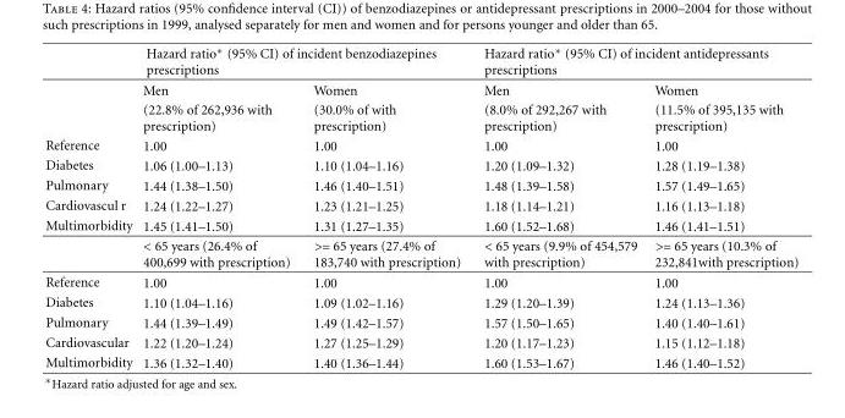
<table><thead><tr><td rowspan="2"></td><td colspan="2">Hazard ratio∗ (95% CI) of incident benzodiazepines prescriptions</td><td colspan="2">Hazard ratio∗ (95% CI) of incident antidepressants prescriptions</td></tr><tr><td>Men</td><td>Women</td><td>Men</td><td>Women</td></tr></thead><tbody><tr><td></td><td>(22.8% of 262,936 with prescription)</td><td>(30.0% of with prescription)</td><td>(8.0% of 292,267 with prescription)</td><td>(11.5% of 395,135 with prescription)</td></tr><tr><td>Reference</td><td>1.00</td><td>1.00</td><td>1.00</td><td>1.00</td></tr><tr><td>Diabetes</td><td>1.06 (1.00–1.13)</td><td>1.10 (1.04–1.16)</td><td>1.20 (1.09–1.32)</td><td>1.28 (1.19–1.38)</td></tr><tr><td>Pulmonary</td><td>1.44 (1.38–1.50)</td><td>1.46 (1.40–1.51)</td><td>1.48 (1.39–1.58)</td><td>1.57 (1.49–1.65)</td></tr><tr><td>Cardiovascul r</td><td>1.24 (1.22–1.27)</td><td>1.23 (1.21–1.25)</td><td>1.18 (1.14–1.21)</td><td>1.16 (1.13–1.18)</td></tr><tr><td rowspan="2">Multimorbidity</td><td>1.45 (1.41–1.50)</td><td>1.31 (1.27–1.35)</td><td>1.60 (1.52–1.68)</td><td>1.46 (1.41–1.51)</td></tr><tr><td>&lt; 65 years (26.4% of 400,699 with prescription)</td><td>&gt;= 65 years (27.4% of 183,740 with prescription)</td><td>&lt; 65 years (9.9% of 454,579 with prescription)</td><td>&gt;= 65 years (10.3% of 232,841with prescription)</td></tr><tr><td>Reference</td><td>1.00</td><td>1.00</td><td>1.00</td><td>1.00</td></tr><tr><td>Diabetes</td><td>1.10 (1.04–1.16)</td><td>1.09 (1.02–1.16)</td><td>1.29 (1.20–1.39)</td><td>1.24 (1.13–1.36)</td></tr><tr><td>Pulmonary</td><td>1.44 (1.39–1.49)</td><td>1.49 (1.42–1.57)</td><td>1.57 (1.50–1.65)</td><td>1.40 (1.40–1.61)</td></tr><tr><td>Cardiovascular</td><td>1.22 (1.20–1.24)</td><td>1.27 (1.25–1.29)</td><td>1.20 (1.17–1.23)</td><td>1.15 (1.12–1.18)</td></tr><tr><td>Multimorbidity</td><td>1.36 (1.32–1.40)</td><td>1.40 (1.36–1.44)</td><td>1.60 (1.53–1.67)</td><td>1.46 (1.40–1.52)</td></tr></tbody></table>